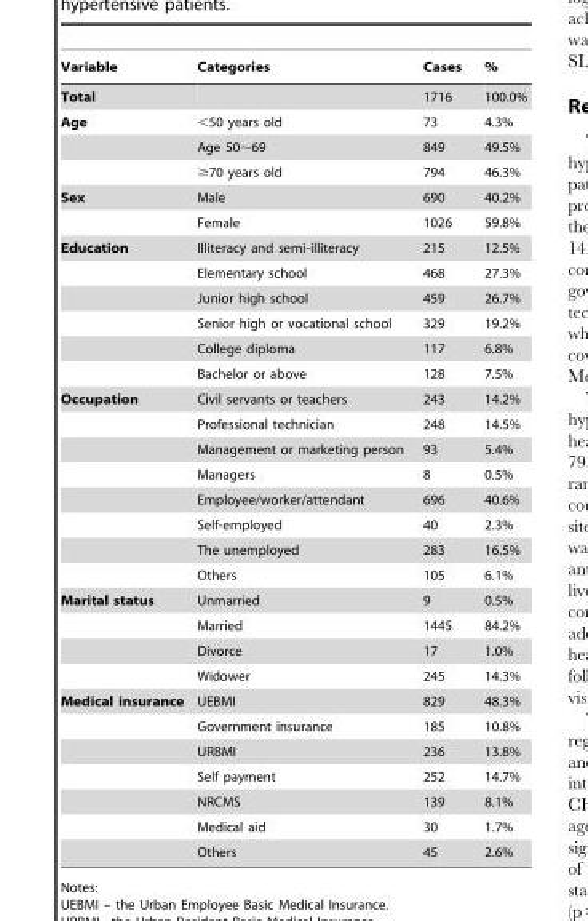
<table><thead><tr><td>Variable</td><td>Categories</td><td>Cases</td><td>%</td></tr></thead><tbody><tr><td>Total</td><td></td><td>1716</td><td>100.0%</td></tr><tr><td rowspan="3">Age</td><td>&lt;50 years old</td><td>73</td><td>4.3%</td></tr><tr><td>Age 50∼69</td><td>849</td><td>49.5%</td></tr><tr><td>≥70 years old</td><td>794</td><td>46.3%</td></tr><tr><td rowspan="2">Sex</td><td>Male</td><td>690</td><td>40.2%</td></tr><tr><td>Female</td><td>1026</td><td>59.8%</td></tr><tr><td rowspan="6">Education</td><td>Illiteracy and semi-illiteracy</td><td>215</td><td>12.5%</td></tr><tr><td>Elementary school</td><td>468</td><td>27.3%</td></tr><tr><td>Junior high school</td><td>459</td><td>26.7%</td></tr><tr><td>Senior high or vocational school</td><td>329</td><td>19.2%</td></tr><tr><td>College diploma</td><td>117</td><td>6.8%</td></tr><tr><td>Bachelor or above</td><td>128</td><td>7.5%</td></tr><tr><td rowspan="8">Occupation</td><td>Civil servants or teachers</td><td>243</td><td>14.2%</td></tr><tr><td>Professional technician</td><td>248</td><td>14.5%</td></tr><tr><td>Management or marketing person</td><td>93</td><td>5.4%</td></tr><tr><td>Managers</td><td>8</td><td>0.5%</td></tr><tr><td>Employee/worker/attendant</td><td>696</td><td>40.6%</td></tr><tr><td>Self-employed</td><td>40</td><td>2.3%</td></tr><tr><td>The unemployed</td><td>283</td><td>16.5%</td></tr><tr><td>Others</td><td>105</td><td>6.1%</td></tr><tr><td rowspan="4">Marital status</td><td>Unmarried</td><td>9</td><td>0.5%</td></tr><tr><td>Married</td><td>1445</td><td>84.2%</td></tr><tr><td>Divorce</td><td>17</td><td>1.0%</td></tr><tr><td>Widower</td><td>245</td><td>14.3%</td></tr><tr><td rowspan="7">Medical insurance</td><td>UEBMI</td><td>829</td><td>48.3%</td></tr><tr><td>Government insurance</td><td>185</td><td>10.8%</td></tr><tr><td>URBMI</td><td>236</td><td>13.8%</td></tr><tr><td>Self payment</td><td>252</td><td>14.7%</td></tr><tr><td>NRCMS</td><td>139</td><td>8.1%</td></tr><tr><td>Medical aid</td><td>30</td><td>1.7%</td></tr><tr><td>Others</td><td>45</td><td>2.6%</td></tr></tbody></table>